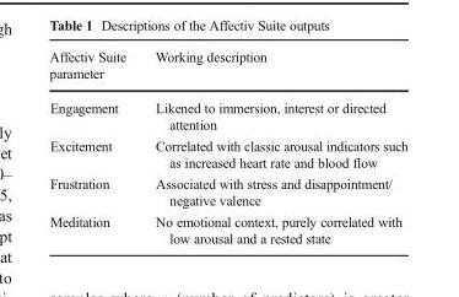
<table><thead><tr><td>Affectiv Suite parameter</td><td>Working description</td></tr></thead><tbody><tr><td>Engagement</td><td>Likened to immersion, interest or directed attention</td></tr><tr><td>Excitement</td><td>Correlated with classic arousal indicators such as increased heart rate and blood flow</td></tr><tr><td>Frustration</td><td>Associated with stress and disappointment/ negative valence</td></tr><tr><td>Meditation</td><td>No emotional context, purely correlated with low arousal and a rested state</td></tr></tbody></table>